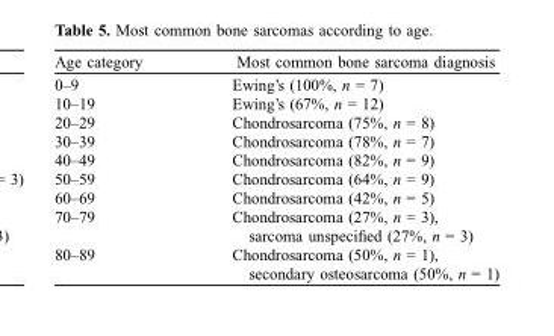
<table><thead><tr><td>Age category</td><td>Most common bone sarcoma diagnosis</td></tr></thead><tbody><tr><td>0–9</td><td>Ewing’s (100%, n = 7)</td></tr><tr><td>10–19</td><td>Ewing’s (67%, n = 12)</td></tr><tr><td>20–29</td><td>Chondrosarcoma (75%, n = 8)</td></tr><tr><td>30–39</td><td>Chondrosarcoma (78%, n = 7)</td></tr><tr><td>40–49</td><td>Chondrosarcoma (82%, n = 9)</td></tr><tr><td>50–59</td><td>Chondrosarcoma (64%, n = 9)</td></tr><tr><td>60–69</td><td>Chondrosarcoma (42%, n = 5)</td></tr><tr><td>70–79</td><td>Chondrosarcoma (27%, n = 3), sarcoma unspecified (27%, n = 3)</td></tr><tr><td>80–89</td><td>Chondrosarcoma (50%, n = 1), secondary osteosarcoma (50%, n = 1)</td></tr></tbody></table>